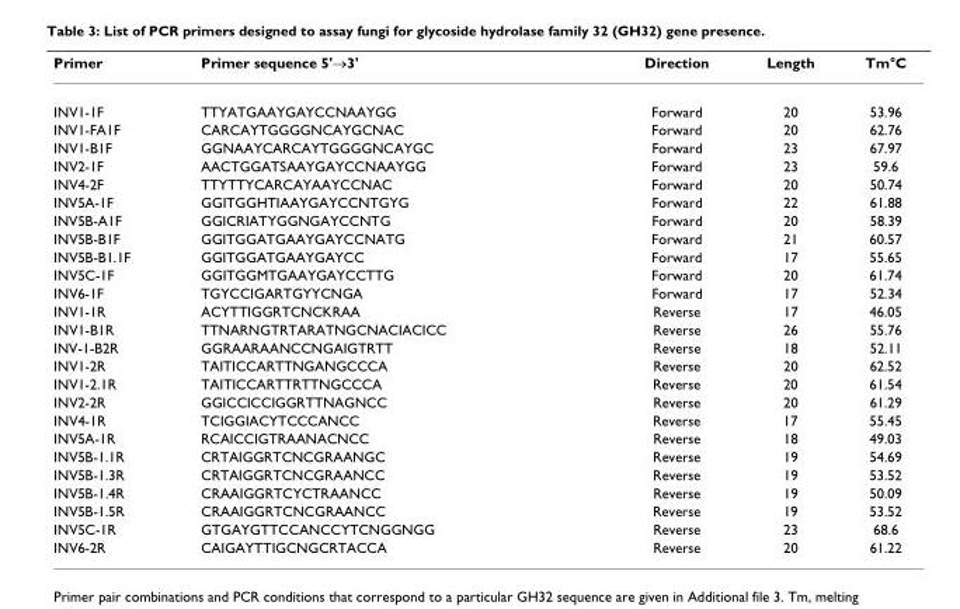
<table><thead><tr><td>Primer</td><td>Primer sequence 5&#x27;→3&#x27;</td><td>Direction</td><td>Length</td><td>Tm°C</td></tr></thead><tbody><tr><td>INV1-1F</td><td>TTYATGAAYGAYCCNAAYGG</td><td>Forward</td><td>20</td><td>53.96</td></tr><tr><td>INV1-FA1F</td><td>CARCAYTGGGGNCAYGCNAC</td><td>Forward</td><td>20</td><td>62.76</td></tr><tr><td>INV1-B1F</td><td>GGNAAYCARCAYTGGGGNCAYGC</td><td>Forward</td><td>23</td><td>67.97</td></tr><tr><td>INV2-1F</td><td>AACTGGATSAAYGAYCCNAAYGG</td><td>Forward</td><td>23</td><td>59.6</td></tr><tr><td>INV4-2F</td><td>TTYTTYCARCAYAAYCCNAC</td><td>Forward</td><td>20</td><td>50.74</td></tr><tr><td>INV5A-1F</td><td>GGITGGHTIAAYGAYCCNTGYG</td><td>Forward</td><td>22</td><td>61.88</td></tr><tr><td>INV5B-A1F</td><td>GGICRIATYGGNGAYCCNTG</td><td>Forward</td><td>20</td><td>58.39</td></tr><tr><td>INV5B-B1F</td><td>GGITGGATGAAYGAYCCNATG</td><td>Forward</td><td>21</td><td>60.57</td></tr><tr><td>INV5B-B1.1F</td><td>GGITGGATGAAYGAYCC</td><td>Forward</td><td>17</td><td>55.65</td></tr><tr><td>INV5C-1F</td><td>GGITGGMTGAAYGAYCCTTG</td><td>Forward</td><td>20</td><td>61.74</td></tr><tr><td>INV6-1F</td><td>TGYCCIGARTGYYCNGA</td><td>Forward</td><td>17</td><td>52.34</td></tr><tr><td>INV1-1R</td><td>ACYTTIGGRTCNCKRAA</td><td>Reverse</td><td>17</td><td>46.05</td></tr><tr><td>INV1-B1R</td><td>TTNARNGTRTARATNGCNACIACICC</td><td>Reverse</td><td>26</td><td>55.76</td></tr><tr><td>INV-1-B2R</td><td>GGRAARAANCCNGAIGTRTT</td><td>Reverse</td><td>18</td><td>52.11</td></tr><tr><td>INV1-2R</td><td>TAITICCARTTNGANGCCCA</td><td>Reverse</td><td>20</td><td>62.52</td></tr><tr><td>INV1-2.1R</td><td>TAITICCARTTRTTNGCCCA</td><td>Reverse</td><td>20</td><td>61.54</td></tr><tr><td>INV2-2R</td><td>GGICCICCIGGRTTNAGNCC</td><td>Reverse</td><td>20</td><td>61.29</td></tr><tr><td>INV4-1R</td><td>TCIGGIACYTCCCANCC</td><td>Reverse</td><td>17</td><td>55.45</td></tr><tr><td>INV5A-1R</td><td>RCAICCIGTRAANACNCC</td><td>Reverse</td><td>18</td><td>49.03</td></tr><tr><td>INV5B-1.1R</td><td>CRTAIGGRTCNCGRAANGC</td><td>Reverse</td><td>19</td><td>54.69</td></tr><tr><td>INV5B-1.3R</td><td>CRTAIGGRTCNCGRAANCC</td><td>Reverse</td><td>19</td><td>53.52</td></tr><tr><td>INV5B-1.4R</td><td>CRAAIGGRTCYCTRAANCC</td><td>Reverse</td><td>19</td><td>50.09</td></tr><tr><td>INV5B-1.5R</td><td>CRAAIGGRTCNCGRAANCC</td><td>Reverse</td><td>19</td><td>53.52</td></tr><tr><td>INV5C-1R</td><td>GTGAYGTTCCANCCYTCNGGNGG</td><td>Reverse</td><td>23</td><td>68.6</td></tr><tr><td>INV6-2R</td><td>CAIGAYTTIGCNGCRTACCA</td><td>Reverse</td><td>20</td><td>61.22</td></tr></tbody></table>